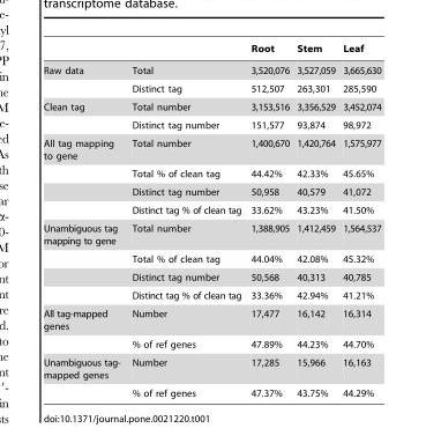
<table><thead><tr><td></td><td></td><td>Root</td><td>Stem</td><td>Leaf</td></tr></thead><tbody><tr><td rowspan="2">Raw data</td><td>Total</td><td>3,520,076</td><td>3,527,059</td><td>3,665,630</td></tr><tr><td>Distinct tag</td><td>512,507</td><td>263,301</td><td>285,590</td></tr><tr><td rowspan="2">Clean tag</td><td>Total number</td><td>3,153,516</td><td>3,356,529</td><td>3,452,074</td></tr><tr><td>Distinct tag number</td><td>151,577</td><td>93,874</td><td>98,972</td></tr><tr><td rowspan="4">All tag mapping to gene</td><td>Total number</td><td>1,400,670</td><td>1,420,764</td><td>1,575,977</td></tr><tr><td>Total % of clean tag</td><td>44.42%</td><td>42.33%</td><td>45.65%</td></tr><tr><td>Distinct tag number</td><td>50,958</td><td>40,579</td><td>41,072</td></tr><tr><td>Distinct tag % of clean tag</td><td>33.62%</td><td>43.23%</td><td>41.50%</td></tr><tr><td rowspan="4">Unambiguous tag mapping to gene</td><td>Total number</td><td>1,388,905</td><td>1,412,459</td><td>1,564,537</td></tr><tr><td>Total % of clean tag</td><td>44.04%</td><td>42.08%</td><td>45.32%</td></tr><tr><td>Distinct tag number</td><td>50,568</td><td>40,313</td><td>40,785</td></tr><tr><td>Distinct tag % of clean tag</td><td>33.36%</td><td>42.94%</td><td>41.21%</td></tr><tr><td rowspan="2">All tag-mapped genes</td><td>Number</td><td>17,477</td><td>16,142</td><td>16,314</td></tr><tr><td>% of ref genes</td><td>47.89%</td><td>44.23%</td><td>44.70%</td></tr><tr><td rowspan="2">Unambiguous tag- mapped genes</td><td>Number</td><td>17,285</td><td>15,966</td><td>16,163</td></tr><tr><td>% of ref genes</td><td>47.37%</td><td>43.75%</td><td>44.29%</td></tr></tbody></table>